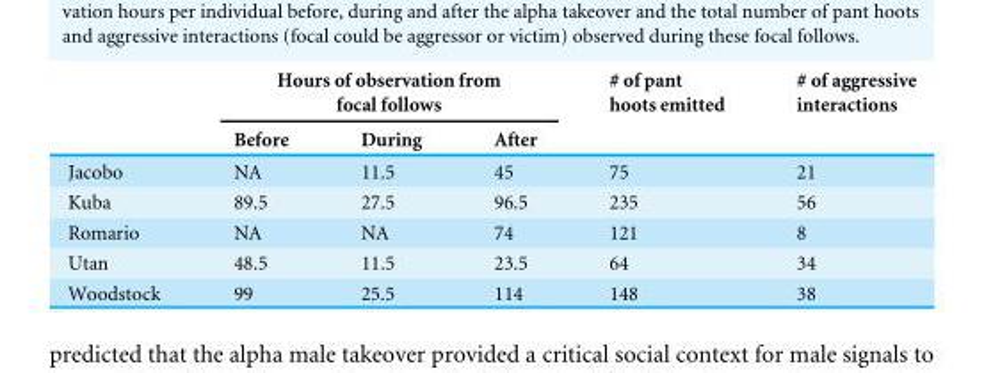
<table><thead><tr><td rowspan="2"></td><td colspan="3">Hours of observation from focal follows</td><td rowspan="2"># of pant hoots emitted</td><td rowspan="2"># of aggressive interactions</td></tr><tr><td>Before</td><td>During</td><td>After</td></tr></thead><tbody><tr><td>Jacobo</td><td>NA</td><td>11.5</td><td>45</td><td>75</td><td>21</td></tr><tr><td>Kuba</td><td>89.5</td><td>27.5</td><td>96.5</td><td>235</td><td>56</td></tr><tr><td>Romario</td><td>NA</td><td>NA</td><td>74</td><td>121</td><td>8</td></tr><tr><td>Utan</td><td>48.5</td><td>11.5</td><td>23.5</td><td>64</td><td>34</td></tr><tr><td>Woodstock</td><td>99</td><td>25.5</td><td>114</td><td>148</td><td>38</td></tr></tbody></table>